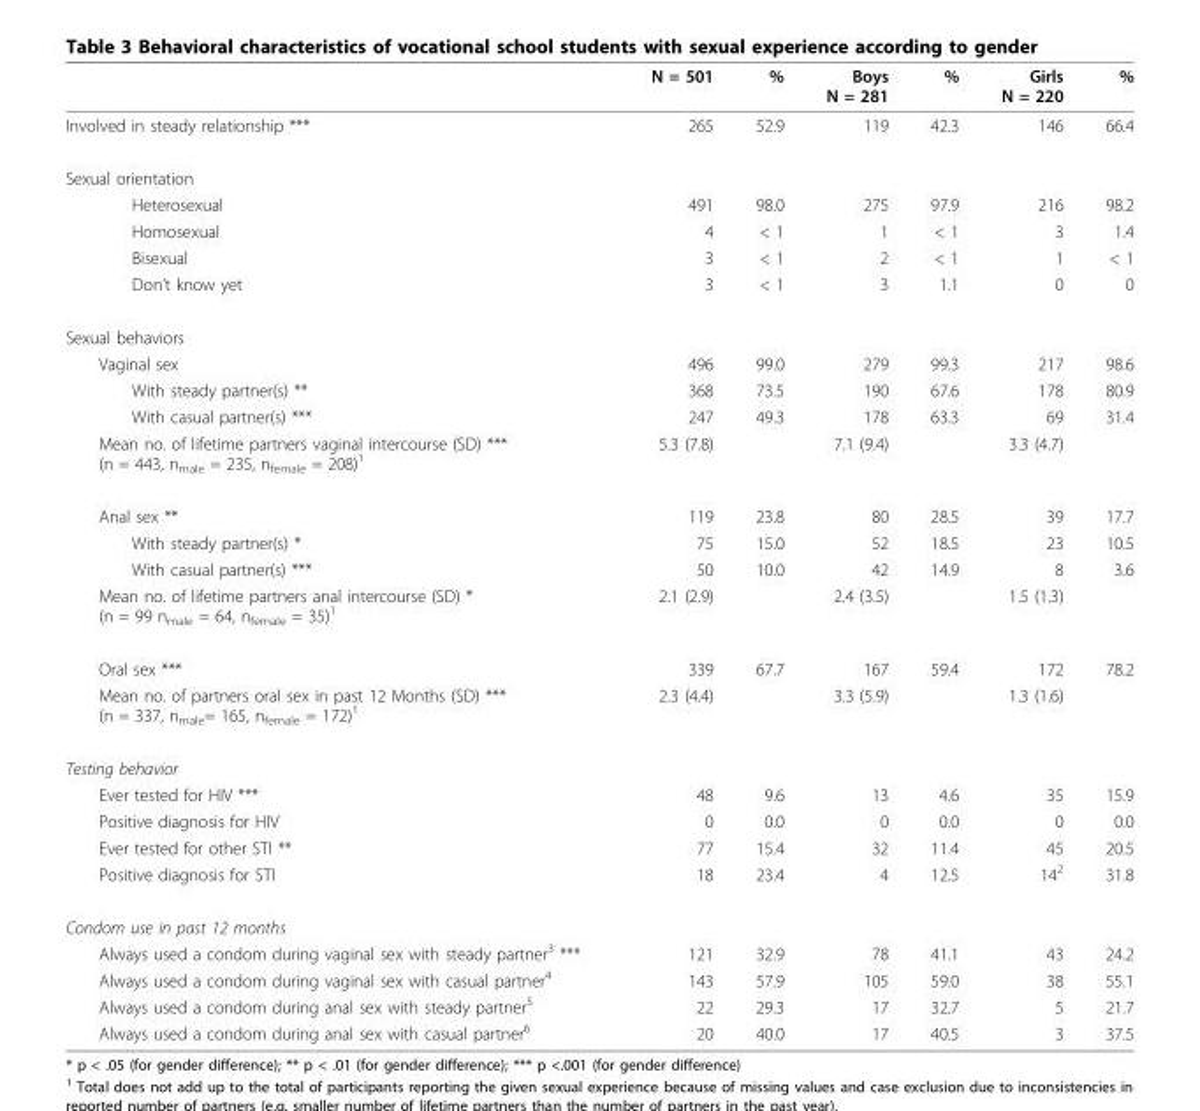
<table><thead><tr><td></td><td>N = 501</td><td>%</td><td>Boys N = 281</td><td>%</td><td>Girls N = 220</td><td>%</td></tr></thead><tbody><tr><td>Involved in steady relationship ***</td><td>265</td><td>52.9</td><td>119</td><td>42.3</td><td>146</td><td>66.4</td></tr><tr><td colspan="7">Sexual orientation</td></tr><tr><td>Heterosexual</td><td>491</td><td>98.0</td><td>275</td><td>97.9</td><td>216</td><td>98.2</td></tr><tr><td>Homosexual</td><td>4</td><td>&lt; 1</td><td>1</td><td>&lt; 1</td><td>3</td><td>1.4</td></tr><tr><td>Bisexual</td><td>3</td><td>&lt; 1</td><td>2</td><td>&lt; 1</td><td>1</td><td>&lt; 1</td></tr><tr><td>Don’t know yet</td><td>3</td><td>&lt; 1</td><td>3</td><td>1.1</td><td>0</td><td>0</td></tr><tr><td colspan="7">Sexual behaviors</td></tr><tr><td>Vaginal sex</td><td>496</td><td>99.0</td><td>279</td><td>99.3</td><td>217</td><td>98.6</td></tr><tr><td>With steady partner(s) **</td><td>368</td><td>73.5</td><td>190</td><td>67.6</td><td>178</td><td>80.9</td></tr><tr><td>With casual partner(s) ***</td><td>247</td><td>49.3</td><td>178</td><td>63.3</td><td>69</td><td>31.4</td></tr><tr><td>Mean no. of lifetime partners vaginal intercourse (SD) *** (n = 443, n<sub>male</sub> = 235, n<sub>female</sub> = 208)<sup>1</sup></td><td>5.3 (7.8)</td><td></td><td>7.1 (9.4)</td><td></td><td>3.3 (4.7)</td><td></td></tr><tr><td>Anal sex **</td><td>119</td><td>23.8</td><td>80</td><td>28.5</td><td>39</td><td>17.7</td></tr><tr><td>With steady partner(s) *</td><td>75</td><td>15.0</td><td>52</td><td>18.5</td><td>23</td><td>10.5</td></tr><tr><td>With casual partner(s) ***</td><td>50</td><td>10.0</td><td>42</td><td>14.9</td><td>8</td><td>3.6</td></tr><tr><td>Mean no. of lifetime partners anal intercourse (SD) * (n = 99 n<sub>male</sub> = 64, n<sub>female</sub> = 35)<sup>1</sup></td><td>2.1 (2.9)</td><td></td><td>2.4 (3.5)</td><td></td><td>1.5 (1.3)</td><td></td></tr><tr><td>Oral sex ***</td><td>339</td><td>67.7</td><td>167</td><td>59.4</td><td>172</td><td>78.2</td></tr><tr><td>Mean no. of partners oral sex in past 12 Months (SD) *** (n = 337, n<sub>male</sub>= 165, n<sub>female</sub> = 172)<sup>1</sup></td><td>2.3 (4.4)</td><td></td><td>3.3 (5.9)</td><td></td><td>1.3 (1.6)</td><td></td></tr><tr><td colspan="7">Testing behavior</td></tr><tr><td>Ever tested for HIV ***</td><td>48</td><td>9.6</td><td>13</td><td>4.6</td><td>35</td><td>15.9</td></tr><tr><td>Positive diagnosis for HIV</td><td>0</td><td>0.0</td><td>0</td><td>0.0</td><td>0</td><td>0.0</td></tr><tr><td>Ever tested for other STI **</td><td>77</td><td>15.4</td><td>32</td><td>11.4</td><td>45</td><td>20.5</td></tr><tr><td>Positive diagnosis for STI</td><td>18</td><td>23.4</td><td>4</td><td>12.5</td><td>14<sup>2</sup></td><td>31.8</td></tr><tr><td colspan="7">Condom use in past 12 months</td></tr><tr><td>Always used a condom during vaginal sex with steady partner<sup>3</sup> ***</td><td>121</td><td>32.9</td><td>78</td><td>41.1</td><td>43</td><td>24.2</td></tr><tr><td>Always used a condom during vaginal sex with casual partner<sup>4</sup></td><td>143</td><td>57.9</td><td>105</td><td>59.0</td><td>38</td><td>55.1</td></tr><tr><td>Always used a condom during anal sex with steady partner<sup>5</sup></td><td>22</td><td>29.3</td><td>17</td><td>32.7</td><td>5</td><td>21.7</td></tr><tr><td>Always used a condom during anal sex with casual partner<sup>6</sup></td><td>20</td><td>40.0</td><td>17</td><td>40.5</td><td>3</td><td>37.5</td></tr></tbody></table>